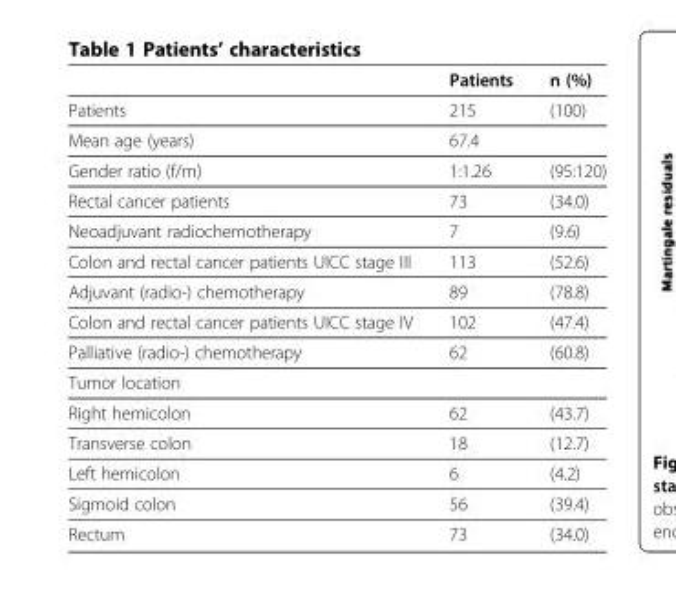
<table><thead><tr><td></td><td>Patients</td><td>n (%)</td></tr></thead><tbody><tr><td>Patients</td><td>215</td><td>(100)</td></tr><tr><td>Mean age (years)</td><td colspan="2">67.4</td></tr><tr><td>Gender ratio (f/m)</td><td>1:1.26</td><td>(95:120)</td></tr><tr><td>Rectal cancer patients</td><td>73</td><td>(34.0)</td></tr><tr><td>Neoadjuvant radiochemotherapy</td><td>7</td><td>(9.6)</td></tr><tr><td>Colon and rectal cancer patients UICC stage III</td><td>113</td><td>(52.6)</td></tr><tr><td>Adjuvant (radio-) chemotherapy</td><td>89</td><td>(78.8)</td></tr><tr><td>Colon and rectal cancer patients UICC stage IV</td><td>102</td><td>(47.4)</td></tr><tr><td>Palliative (radio-) chemotherapy</td><td>62</td><td>(60.8)</td></tr><tr><td colspan="3">Tumor location</td></tr><tr><td>Right hemicolon</td><td>62</td><td>(43.7)</td></tr><tr><td>Transverse colon</td><td>18</td><td>(12.7)</td></tr><tr><td>Left hemicolon</td><td>6</td><td>(4.2)</td></tr><tr><td>Sigmoid colon</td><td>56</td><td>(39.4)</td></tr><tr><td>Rectum</td><td>73</td><td>(34.0)</td></tr></tbody></table>